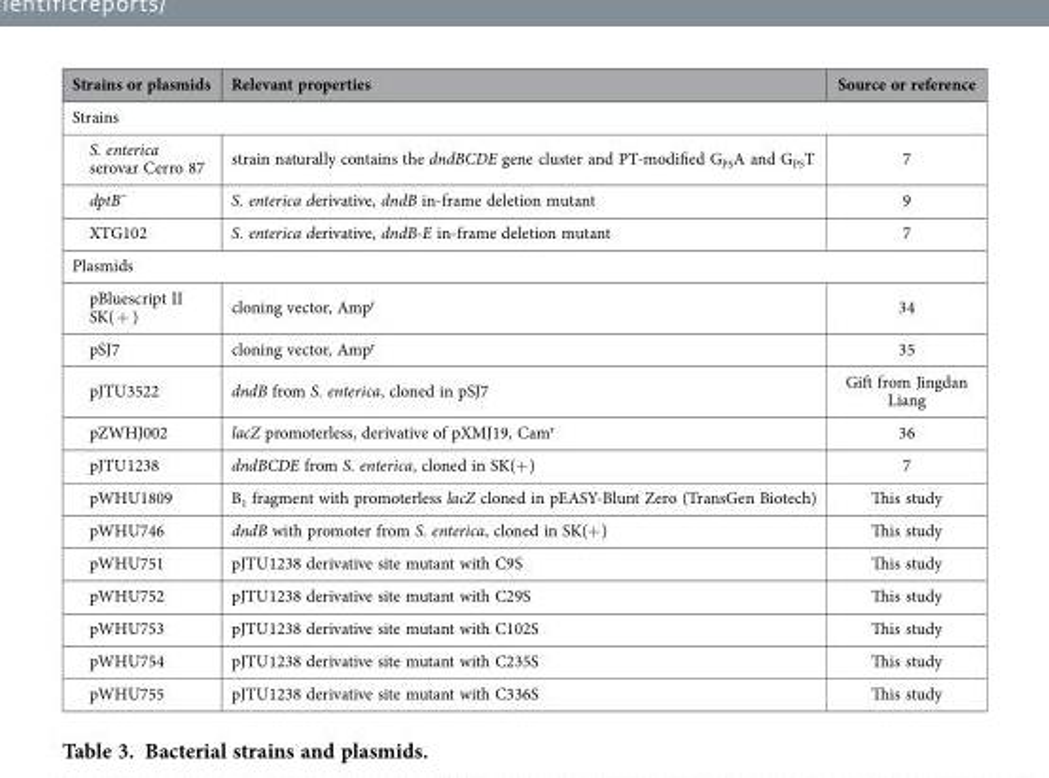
<table><tbody><tr><td>Strains or plasmids</td><td>Relevant properties</td><td>Source or reference</td></tr><tr><td colspan="3">Strains</td></tr><tr><td>S. enterica serovar Cerro 87</td><td>strain naturally contains the dndBCDE gene cluster and PT-modified G<sub>PS</sub>A and G<sub>PS</sub>T</td><td>7</td></tr><tr><td>dptBˉ</td><td>S. enterica derivative, dndB in-frame deletion mutant</td><td>9</td></tr><tr><td>XTG102</td><td>S. enterica derivative, dndB-E in-frame deletion mutant</td><td>7</td></tr><tr><td colspan="3">Plasmids</td></tr><tr><td>pBluescript II SK( + )</td><td>cloning vector, Amp<sup>r</sup></td><td>34</td></tr><tr><td>pSJ7</td><td>cloning vector, Amp<sup>r</sup></td><td>35</td></tr><tr><td>pJTU3522</td><td>dndB from S. enterica, cloned in pSJ7</td><td>Gift from Jingdan Liang</td></tr><tr><td>pZWHJ002</td><td>lacZ promoterless, derivative of pXMJ19, Cam<sup>r</sup></td><td>36</td></tr><tr><td>pJTU1238</td><td>dndBCDE from S. enterica, cloned in SK(+ )</td><td>7</td></tr><tr><td>pWHU1809</td><td>B<sub>1</sub> fragment with promoterless lacZ cloned in pEASY-Blunt Zero (TransGen Biotech)</td><td>This study</td></tr><tr><td>pWHU746</td><td>dndB with promoter from S. enterica, cloned in SK(+ )</td><td>This study</td></tr><tr><td>pWHU751</td><td>pJTU1238 derivative site mutant with C9S</td><td>This study</td></tr><tr><td>pWHU752</td><td>pJTU1238 derivative site mutant with C29S</td><td>This study</td></tr><tr><td>pWHU753</td><td>pJTU1238 derivative site mutant with C102S</td><td>This study</td></tr><tr><td>pWHU754</td><td>pJTU1238 derivative site mutant with C235S</td><td>This study</td></tr><tr><td>pWHU755</td><td>pJTU1238 derivative site mutant with C336S</td><td>This study</td></tr></tbody></table>